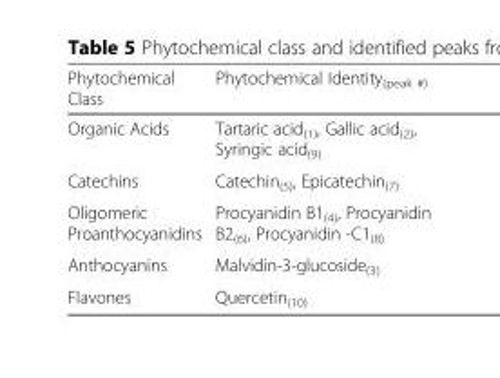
<table><thead><tr><td>Phytochemical Class</td><td>Phytochemical Identity<sub>(peak #)</sub></td></tr></thead><tbody><tr><td>Organic Acids</td><td>Tartaric acid<sub>(1)</sub>, Gallic acid<sub>(2)</sub>, Syringic acid<sub>(9)</sub></td></tr><tr><td>Catechins</td><td>Catechin<sub>(5)</sub>, Epicatechin<sub>(7)</sub></td></tr><tr><td>Oligomeric Proanthocyanidins</td><td>Procyanidin B1<sub>(4)</sub>, Procyanidin B2<sub>(6)</sub>, Procyanidin -C1<sub>(8)</sub></td></tr><tr><td>Anthocyanins</td><td>Malvidin-3-glucoside<sub>(3)</sub></td></tr><tr><td>Flavones</td><td>Quercetin<sub>(10)</sub></td></tr></tbody></table>